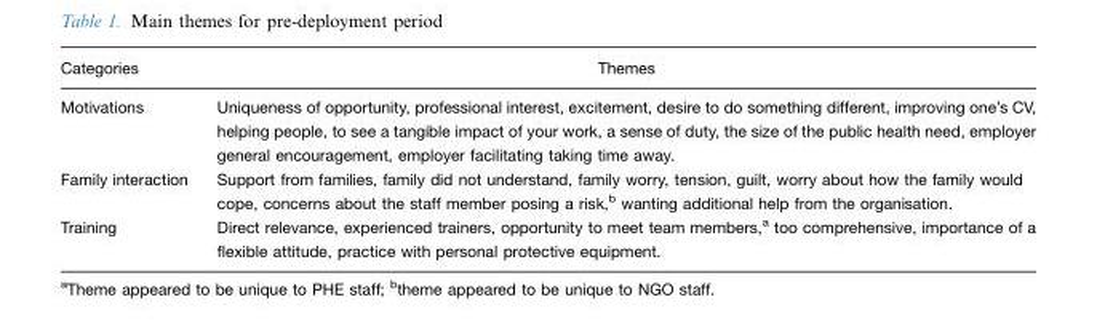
<table><thead><tr><td>Categories</td><td>Themes</td></tr></thead><tbody><tr><td>Motivations</td><td>Uniqueness of opportunity, professional interest, excitement, desire to do something different, improving one’s CV, helping people, to see a tangible impact of your work, a sense of duty, the size of the public health need, employer general encouragement, employer facilitating taking time away.</td></tr><tr><td>Family interaction</td><td>Support from families, family did not understand, family worry, tension, guilt, worry about how the family would cope, concerns about the staff member posing a risk,<sup>b</sup> wanting additional help from the organisation.</td></tr><tr><td>Training</td><td>Direct relevance, experienced trainers, opportunity to meet team members,<sup>a</sup> too comprehensive, importance of a flexible attitude, practice with personal protective equipment.</td></tr></tbody></table>